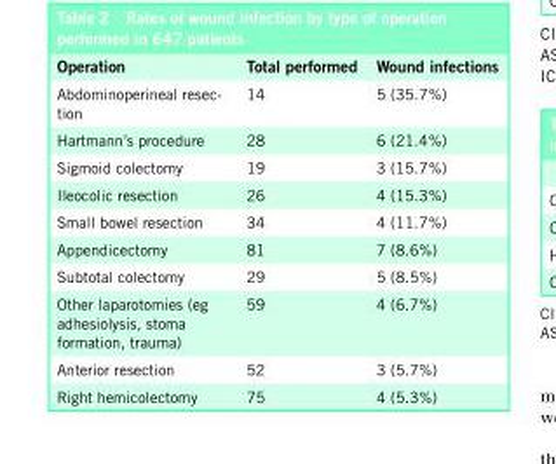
<table><thead><tr><td>Operation</td><td>Total performed</td><td>Wound infections</td></tr></thead><tbody><tr><td>Abdominoperineal resec- tion</td><td>14</td><td>5 (35.7%)</td></tr><tr><td>Hartmann’s procedure</td><td>28</td><td>6 (21.4%)</td></tr><tr><td>Sigmoid colectomy</td><td>19</td><td>3 (15.7%)</td></tr><tr><td>Ileocolic resection</td><td>26</td><td>4 (15.3%)</td></tr><tr><td>Small bowel resection</td><td>34</td><td>4 (11.7%)</td></tr><tr><td>Appendicectomy</td><td>81</td><td>7 (8.6%)</td></tr><tr><td>Subtotal colectomy</td><td>29</td><td>5 (8.5%)</td></tr><tr><td>Other laparotomies (eg adhesiolysis, stoma formation, trauma)</td><td>59</td><td>4 (6.7%)</td></tr><tr><td>Anterior resection</td><td>52</td><td>3 (5.7%)</td></tr><tr><td>Right hemicolectomy</td><td>75</td><td>4 (5.3%)</td></tr></tbody></table>